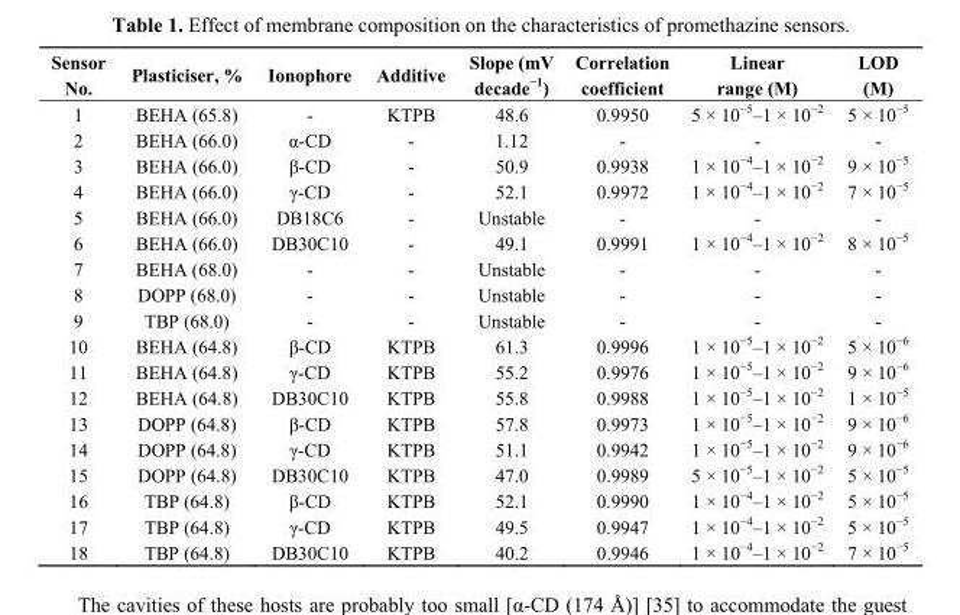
<table><thead><tr><td>Sensor No.</td><td>Plasticiser, %</td><td>Ionophore</td><td>Additive</td><td>Slope (mV decade<sup>−1</sup>)</td><td>Correlation coefficient</td><td>Linear range (M)</td><td>LOD (M)</td></tr></thead><tbody><tr><td>1</td><td>BEHA (65.8)</td><td>-</td><td>KTPB</td><td>48.6</td><td>0.9950</td><td>5 × 10<sup>−5</sup>–1 × 10<sup>−2</sup></td><td>5 × 10<sup>−5</sup></td></tr><tr><td>2</td><td>BEHA (66.0)</td><td>α-CD</td><td>-</td><td>1.12</td><td>-</td><td>-</td><td>-</td></tr><tr><td>3</td><td>BEHA (66.0)</td><td>β-CD</td><td>-</td><td>50.9</td><td>0.9938</td><td>1 × 10<sup>−4</sup>–1 × 10<sup>−2</sup></td><td>9 × 10<sup>−5</sup></td></tr><tr><td>4</td><td>BEHA (66.0)</td><td>γ-CD</td><td>-</td><td>52.1</td><td>0.9972</td><td>1 × 10<sup>−4</sup>–1 × 10<sup>−2</sup></td><td>7 × 10<sup>−5</sup></td></tr><tr><td>5</td><td>BEHA (66.0)</td><td>DB18C6</td><td>-</td><td>Unstable</td><td>-</td><td>-</td><td>-</td></tr><tr><td>6</td><td>BEHA (66.0)</td><td>DB30C10</td><td>-</td><td>49.1</td><td>0.9991</td><td>1 × 10<sup>−4</sup>–1 × 10<sup>−2</sup></td><td>8 × 10<sup>−5</sup></td></tr><tr><td>7</td><td>BEHA (68.0)</td><td>-</td><td>-</td><td>Unstable</td><td>-</td><td>-</td><td>-</td></tr><tr><td>8</td><td>DOPP (68.0)</td><td>-</td><td>-</td><td>Unstable</td><td>-</td><td>-</td><td>-</td></tr><tr><td>9</td><td>TBP (68.0)</td><td>-</td><td>-</td><td>Unstable</td><td>-</td><td>-</td><td>-</td></tr><tr><td>10</td><td>BEHA (64.8)</td><td>β-CD</td><td>KTPB</td><td>61.3</td><td>0.9996</td><td>1 × 10<sup>−5</sup>–1 × 10<sup>−2</sup></td><td>5 × 10<sup>−6</sup></td></tr><tr><td>11</td><td>BEHA (64.8)</td><td>γ-CD</td><td>KTPB</td><td>55.2</td><td>0.9976</td><td>1 × 10<sup>−5</sup>–1 × 10<sup>−2</sup></td><td>9 × 10<sup>−6</sup></td></tr><tr><td>12</td><td>BEHA (64.8)</td><td>DB30C10</td><td>KTPB</td><td>55.8</td><td>0.9988</td><td>1 × 10<sup>−5</sup>–1 × 10<sup>−2</sup></td><td>1 × 10<sup>−5</sup></td></tr><tr><td>13</td><td>DOPP (64.8)</td><td>β-CD</td><td>KTPB</td><td>57.8</td><td>0.9973</td><td>1 × 10<sup>−5</sup>–1 × 10<sup>−2</sup></td><td>9 × 10<sup>−6</sup></td></tr><tr><td>14</td><td>DOPP (64.8)</td><td>γ-CD</td><td>KTPB</td><td>51.1</td><td>0.9942</td><td>1 × 10<sup>−5</sup>–1 × 10<sup>−2</sup></td><td>9 × 10<sup>−6</sup></td></tr><tr><td>15</td><td>DOPP (64.8)</td><td>DB30C10</td><td>KTPB</td><td>47.0</td><td>0.9989</td><td>5 × 10<sup>−5</sup>–1 × 10<sup>−2</sup></td><td>5 × 10<sup>−5</sup></td></tr><tr><td>16</td><td>TBP (64.8)</td><td>β-CD</td><td>KTPB</td><td>52.1</td><td>0.9990</td><td>1 × 10<sup>−4</sup>–1 × 10<sup>−2</sup></td><td>5 × 10<sup>−5</sup></td></tr><tr><td>17</td><td>TBP (64.8)</td><td>γ-CD</td><td>KTPB</td><td>49.5</td><td>0.9947</td><td>1 × 10<sup>−4</sup>–1 × 10<sup>−2</sup></td><td>5 × 10<sup>−5</sup></td></tr><tr><td>18</td><td>TBP (64.8)</td><td>DB30C10</td><td>KTPB</td><td>40.2</td><td>0.9946</td><td>1 × 10<sup>−4</sup>–1 × 10<sup>−2</sup></td><td>7 × 10<sup>−5</sup></td></tr></tbody></table>